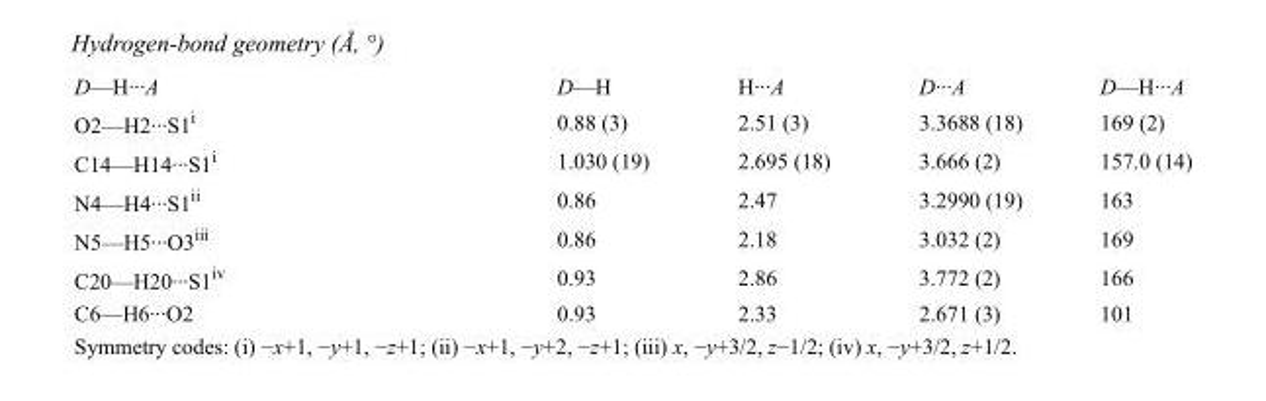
<table><tbody><tr><td>D—H···A</td><td>D—H</td><td>H···A</td><td>D···A</td><td>D—H···A</td></tr><tr><td>O2—H2···S1<sup>i</sup></td><td>0.88 (3)</td><td>2.51 (3)</td><td>3.3688 (18)</td><td>169 (2)</td></tr><tr><td>C14—H14···S1<sup>i</sup></td><td>1.030 (19)</td><td>2.695 (18)</td><td>3.666 (2)</td><td>157.0 (14)</td></tr><tr><td>N4—H4···S1<sup>ii</sup></td><td>0.86</td><td>2.47</td><td>3.2990 (19)</td><td>163</td></tr><tr><td>N5—H5···O3<sup>iii</sup></td><td>0.86</td><td>2.18</td><td>3.032 (2)</td><td>169</td></tr><tr><td>C20—H20···S1<sup>iv</sup></td><td>0.93</td><td>2.86</td><td>3.772 (2)</td><td>166</td></tr><tr><td>C6—H6···O2</td><td>0.93</td><td>2.33</td><td>2.671 (3)</td><td>101</td></tr></tbody></table>